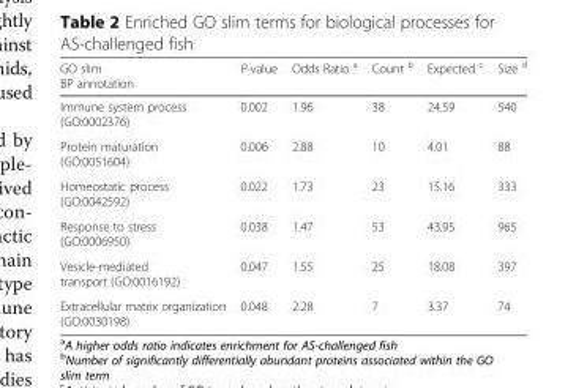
<table><thead><tr><td>GO slim BP annotation</td><td>P-value</td><td>Odds Ratio <sup>a</sup></td><td>Count <sup>b</sup></td><td>Expected <sup>c</sup></td><td>Size <sup>d</sup></td></tr></thead><tbody><tr><td>Immune system process (GO:0002376)</td><td>0.002</td><td>1.96</td><td>38</td><td>24.59</td><td>540</td></tr><tr><td>Protein maturation (GO:0051604)</td><td>0.006</td><td>2.88</td><td>10</td><td>4.01</td><td>88</td></tr><tr><td>Homeostatic process (GO:0042592)</td><td>0.022</td><td>1.73</td><td>23</td><td>15.16</td><td>333</td></tr><tr><td>Response to stress (GO:0006950)</td><td>0.038</td><td>1.47</td><td>53</td><td>43.95</td><td>965</td></tr><tr><td>Vesicle-mediated transport (GO:0016192)</td><td>0.047</td><td>1.55</td><td>25</td><td>18.08</td><td>397</td></tr><tr><td>Extracellular matrix organization (GO:0030198)</td><td>0.048</td><td>2.28</td><td>7</td><td>3.37</td><td>74</td></tr></tbody></table>